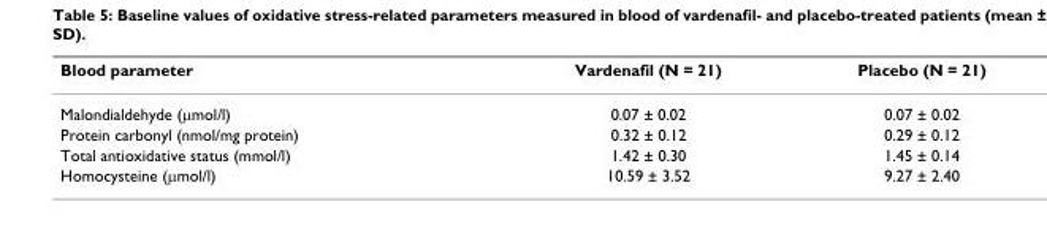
<table><thead><tr><td>Blood parameter</td><td>Vardenafil (N = 21)</td><td>Placebo (N = 21)</td></tr></thead><tbody><tr><td>Malondialdehyde (μmol/l)</td><td>0.07 ± 0.02</td><td>0.07 ± 0.02</td></tr><tr><td>Protein carbonyl (nmol/mg protein)</td><td>0.32 ± 0.12</td><td>0.29 ± 0.12</td></tr><tr><td>Total antioxidative status (mmol/l)</td><td>1.42 ± 0.30</td><td>1.45 ± 0.14</td></tr><tr><td>Homocysteine (μmol/l)</td><td>10.59 ± 3.52</td><td>9.27 ± 2.40</td></tr></tbody></table>